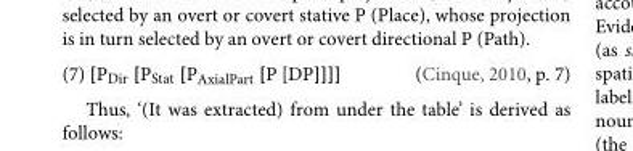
<table><tbody><tr><td>(7) [P<sub>Dir</sub> [P<sub>Stat</sub> [P<sub>AxialPart</sub> [P [DP]]]]</td><td>(Cinque, 2010, p. 7)</td></tr></tbody></table>